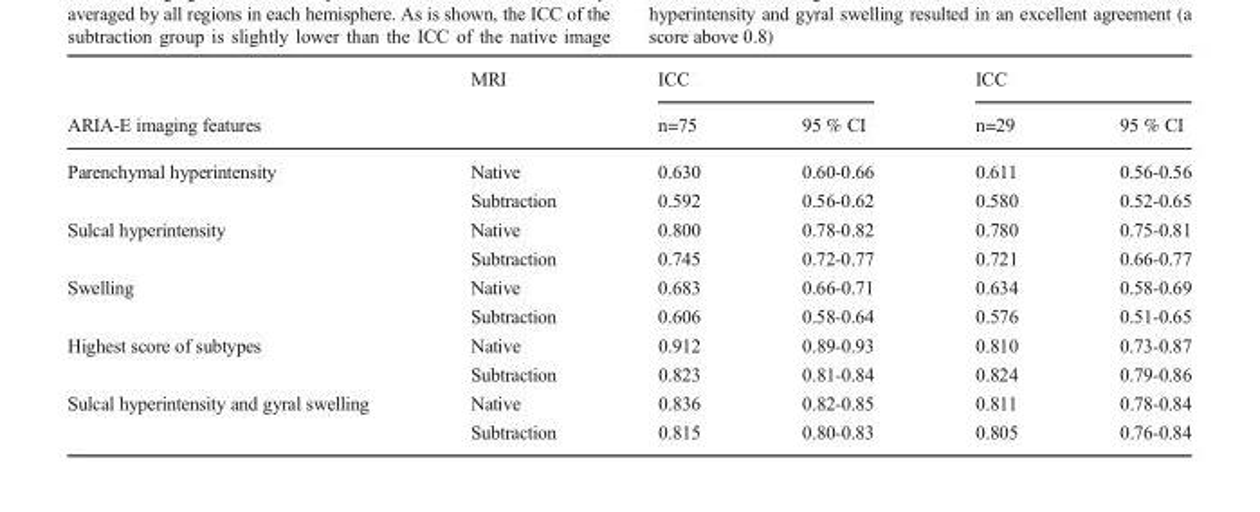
<table><thead><tr><td rowspan="2">ARIA-E imaging features</td><td rowspan="2">MRI</td><td colspan="2">ICC</td><td colspan="2">ICC</td></tr><tr><td>n=75</td><td>95 % CI</td><td>n=29</td><td>95 % CI</td></tr></thead><tbody><tr><td rowspan="2">Parenchymal hyperintensity</td><td>Native</td><td>0.630</td><td>0.60-0.66</td><td>0.611</td><td>0.56-0.56</td></tr><tr><td>Subtraction</td><td>0.592</td><td>0.56-0.62</td><td>0.580</td><td>0.52-0.65</td></tr><tr><td rowspan="2">Sulcal hyperintensity</td><td>Native</td><td>0.800</td><td>0.78-0.82</td><td>0.780</td><td>0.75-0.81</td></tr><tr><td>Subtraction</td><td>0.745</td><td>0.72-0.77</td><td>0.721</td><td>0.66-0.77</td></tr><tr><td rowspan="2">Swelling</td><td>Native</td><td>0.683</td><td>0.66-0.71</td><td>0.634</td><td>0.58-0.69</td></tr><tr><td>Subtraction</td><td>0.606</td><td>0.58-0.64</td><td>0.576</td><td>0.51-0.65</td></tr><tr><td rowspan="2">Highest score of subtypes</td><td>Native</td><td>0.912</td><td>0.89-0.93</td><td>0.810</td><td>0.73-0.87</td></tr><tr><td>Subtraction</td><td>0.823</td><td>0.81-0.84</td><td>0.824</td><td>0.79-0.86</td></tr><tr><td rowspan="2">Sulcal hyperintensity and gyral swelling</td><td>Native</td><td>0.836</td><td>0.82-0.85</td><td>0.811</td><td>0.78-0.84</td></tr><tr><td>Subtraction</td><td>0.815</td><td>0.80-0.83</td><td>0.805</td><td>0.76-0.84</td></tr></tbody></table>